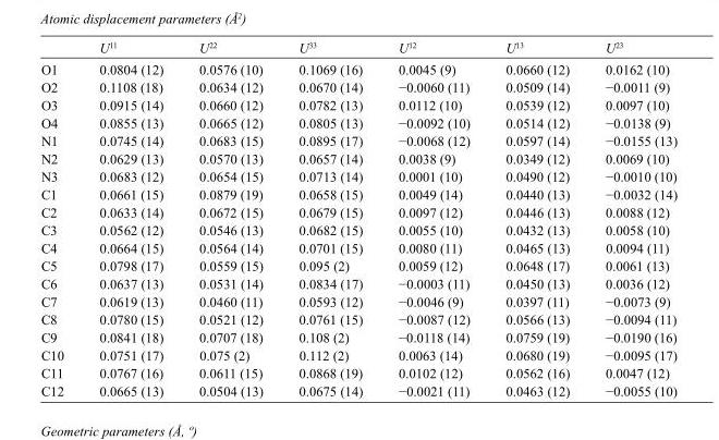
<table><thead><tr><td></td><td>U<sup>11</sup></td><td>U<sup>22</sup></td><td>U<sup>33</sup></td><td>U<sup>12</sup></td><td>U<sup>13</sup></td><td>U<sup>23</sup></td></tr></thead><tbody><tr><td>O1</td><td>0.0804 (12)</td><td>0.0576 (10)</td><td>0.1069 (16)</td><td>0.0045 (9)</td><td>0.0660 (12)</td><td>0.0162 (10)</td></tr><tr><td>O2</td><td>0.1108 (18)</td><td>0.0634 (12)</td><td>0.0670 (14)</td><td>−0.0060 (11)</td><td>0.0509 (14)</td><td>−0.0011 (9)</td></tr><tr><td>O3</td><td>0.0915 (14)</td><td>0.0660 (12)</td><td>0.0782 (13)</td><td>0.0112 (10)</td><td>0.0539 (12)</td><td>0.0097 (10)</td></tr><tr><td>O4</td><td>0.0855 (13)</td><td>0.0665 (12)</td><td>0.0805 (13)</td><td>−0.0092 (10)</td><td>0.0514 (12)</td><td>−0.0138 (9)</td></tr><tr><td>N1</td><td>0.0745 (14)</td><td>0.0683 (15)</td><td>0.0895 (17)</td><td>−0.0068 (12)</td><td>0.0597 (14)</td><td>−0.0155 (13)</td></tr><tr><td>N2</td><td>0.0629 (13)</td><td>0.0570 (13)</td><td>0.0657 (14)</td><td>0.0038 (9)</td><td>0.0349 (12)</td><td>0.0069 (10)</td></tr><tr><td>N3</td><td>0.0683 (12)</td><td>0.0654 (15)</td><td>0.0713 (14)</td><td>0.0001 (10)</td><td>0.0490 (12)</td><td>−0.0010 (10)</td></tr><tr><td>C1</td><td>0.0661 (15)</td><td>0.0879 (19)</td><td>0.0658 (15)</td><td>0.0049 (14)</td><td>0.0440 (13)</td><td>−0.0032 (14)</td></tr><tr><td>C2</td><td>0.0633 (14)</td><td>0.0672 (15)</td><td>0.0679 (15)</td><td>0.0097 (12)</td><td>0.0446 (13)</td><td>0.0088 (12)</td></tr><tr><td>C3</td><td>0.0562 (12)</td><td>0.0546 (13)</td><td>0.0682 (15)</td><td>0.0055 (10)</td><td>0.0432 (13)</td><td>0.0058 (10)</td></tr><tr><td>C4</td><td>0.0664 (15)</td><td>0.0564 (14)</td><td>0.0701 (15)</td><td>0.0080 (11)</td><td>0.0465 (13)</td><td>0.0094 (11)</td></tr><tr><td>C5</td><td>0.0798 (17)</td><td>0.0559 (15)</td><td>0.095 (2)</td><td>0.0059 (12)</td><td>0.0648 (17)</td><td>0.0061 (13)</td></tr><tr><td>C6</td><td>0.0637 (13)</td><td>0.0531 (14)</td><td>0.0834 (17)</td><td>−0.0003 (11)</td><td>0.0450 (13)</td><td>0.0036 (12)</td></tr><tr><td>C7</td><td>0.0619 (13)</td><td>0.0460 (11)</td><td>0.0593 (12)</td><td>−0.0046 (9)</td><td>0.0397 (11)</td><td>−0.0073 (9)</td></tr><tr><td>C8</td><td>0.0780 (15)</td><td>0.0521 (12)</td><td>0.0761 (15)</td><td>−0.0087 (12)</td><td>0.0566 (13)</td><td>−0.0094 (11)</td></tr><tr><td>C9</td><td>0.0841 (18)</td><td>0.0707 (18)</td><td>0.108 (2)</td><td>−0.0118 (14)</td><td>0.0759 (19)</td><td>−0.0190 (16)</td></tr><tr><td>C10</td><td>0.0751 (17)</td><td>0.075 (2)</td><td>0.112 (2)</td><td>0.0063 (14)</td><td>0.0680 (19)</td><td>−0.0095 (17)</td></tr><tr><td>C11</td><td>0.0767 (16)</td><td>0.0611 (15)</td><td>0.0868 (19)</td><td>0.0102 (12)</td><td>0.0562 (16)</td><td>0.0047 (12)</td></tr><tr><td>C12</td><td>0.0665 (13)</td><td>0.0504 (13)</td><td>0.0675 (14)</td><td>−0.0021 (11)</td><td>0.0463 (12)</td><td>−0.0055 (10)</td></tr></tbody></table>